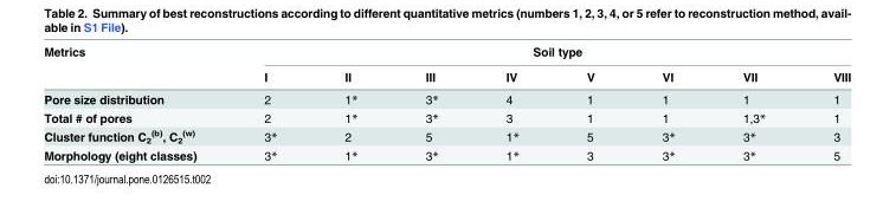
<table><thead><tr><td rowspan="2">Metrics</td><td colspan="8">Soil type</td></tr><tr><td>I</td><td>II</td><td>III</td><td>IV</td><td>V</td><td>VI</td><td>VII</td><td>VIII</td></tr></thead><tbody><tr><td>Pore size distribution</td><td>2</td><td>1*</td><td>3*</td><td>4</td><td>1</td><td>1</td><td>1</td><td>1</td></tr><tr><td>Total # of pores</td><td>2</td><td>1*</td><td>3*</td><td>3</td><td>1</td><td>1</td><td>1,3*</td><td>1</td></tr><tr><td>Cluster function C<sub>2</sub> <sup>(b)</sup>, C<sub>2</sub> <sup>(w)</sup></td><td>3*</td><td>2</td><td>5</td><td>1*</td><td>5</td><td>3*</td><td>3*</td><td>3</td></tr><tr><td>Morphology (eight classes)</td><td>3*</td><td>1*</td><td>3*</td><td>1*</td><td>3</td><td>3*</td><td>3*</td><td>5</td></tr></tbody></table>